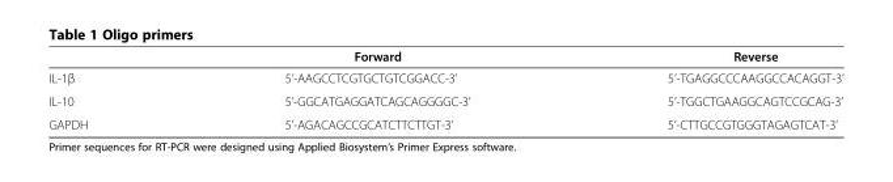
<table><thead><tr><td></td><td>Forward</td><td>Reverse</td></tr></thead><tbody><tr><td>IL-1β</td><td>5’-AAGCCTCGTGCTGTCGGACC-3’</td><td>5’-TGAGGCCCAAGGCCACAGGT-3’</td></tr><tr><td>IL-10</td><td>5’-GGCATGAGGATCAGCAGGGGC-3’</td><td>5’-TGGCTGAAGGCAGTCCGCAG-3’</td></tr><tr><td>GAPDH</td><td>5’-AGACAGCCGCATCTTCTTGT-3’</td><td>5’-CTTGCCGTGGGTAGAGTCAT-3’</td></tr></tbody></table>